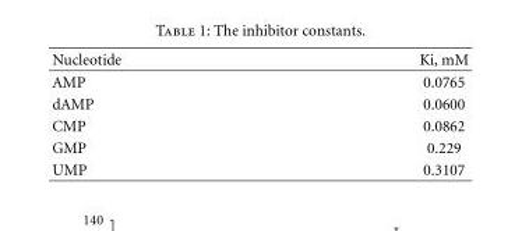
<table><thead><tr><td>Nucleotide</td><td>Ki, mM</td></tr></thead><tbody><tr><td>AMP</td><td>0.0765</td></tr><tr><td>dAMP</td><td>0.0600</td></tr><tr><td>CMP</td><td>0.0862</td></tr><tr><td>GMP</td><td>0.229</td></tr><tr><td>UMP</td><td>0.3107</td></tr></tbody></table>